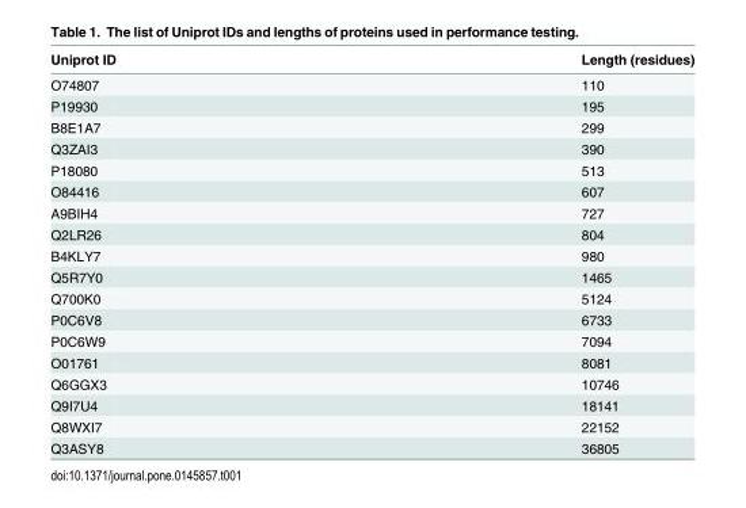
<table><thead><tr><td>Uniprot ID</td><td>Length (residues)</td></tr></thead><tbody><tr><td>O74807</td><td>110</td></tr><tr><td>P19930</td><td>195</td></tr><tr><td>B8E1A7</td><td>299</td></tr><tr><td>Q3ZAI3</td><td>390</td></tr><tr><td>P18080</td><td>513</td></tr><tr><td>O84416</td><td>607</td></tr><tr><td>A9BIH4</td><td>727</td></tr><tr><td>Q2LR26</td><td>804</td></tr><tr><td>B4KLY7</td><td>980</td></tr><tr><td>Q5R7Y0</td><td>1465</td></tr><tr><td>Q700K0</td><td>5124</td></tr><tr><td>P0C6V8</td><td>6733</td></tr><tr><td>P0C6W9</td><td>7094</td></tr><tr><td>O01761</td><td>8081</td></tr><tr><td>Q6GGX3</td><td>10746</td></tr><tr><td>Q9I7U4</td><td>18141</td></tr><tr><td>Q8WXI7</td><td>22152</td></tr><tr><td>Q3ASY8</td><td>36805</td></tr></tbody></table>